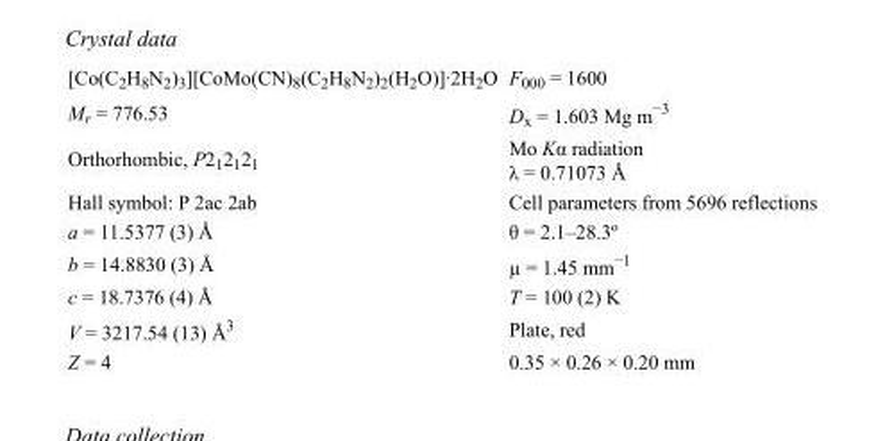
<table><tbody><tr><td>[Co(C<sub>2</sub>H<sub>8</sub>N<sub>2</sub>)<sub>3</sub>][CoMo(CN)<sub>8</sub>(C<sub>2</sub>H<sub>8</sub>N<sub>2</sub>)<sub>2</sub>(H<sub>2</sub>O)]·2H<sub>2</sub>O</td><td>F000 = 1600</td></tr><tr><td>M<sub>r</sub> = 776.53</td><td>D<sub>x</sub> = 1.603 Mg m<sup>−3</sup></td></tr><tr><td>Orthorhombic, P2<sub>1</sub>2<sub>1</sub>2<sub>1</sub></td><td>Mo Kα radiation λ = 0.71073 Å</td></tr><tr><td>Hall symbol: P 2ac 2ab</td><td>Cell parameters from 5696 reflections</td></tr><tr><td>a = 11.5377 (3) Å</td><td>θ = 2.1–28.3º</td></tr><tr><td>b = 14.8830 (3) Å</td><td>µ = 1.45 mm<sup>−1</sup></td></tr><tr><td>c = 18.7376 (4) Å</td><td>T = 100 (2) K</td></tr><tr><td>V = 3217.54 (13) Å<sup>3</sup></td><td>Plate, red</td></tr><tr><td>Z = 4</td><td>0.35 × 0.26 × 0.20 mm</td></tr></tbody></table>